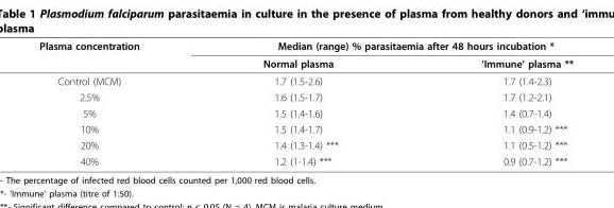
<table><thead><tr><td rowspan="2">Plasma concentration</td><td colspan="2">Median (range) % parasitaemia after 48 hours incubation *</td></tr><tr><td>Normal plasma</td><td>‘Immune’ plasma **</td></tr></thead><tbody><tr><td>Control (MCM)</td><td>1.7 (1.5-2.6)</td><td>1.7 (1.4-2.3)</td></tr><tr><td>2.5%</td><td>1.6 (1.5-1.7)</td><td>1.7 (1.2-2.1)</td></tr><tr><td>5%</td><td>1.5 (1.4-1.6)</td><td>1.4 (0.7-1.4)</td></tr><tr><td>10%</td><td>1.5 (1.4-1.7)</td><td>1.1 (0.9-1.2) ***</td></tr><tr><td>20%</td><td>1.4 (1.3-1.4) ***</td><td>1.1 (0.5-1.2) ***</td></tr><tr><td>40%</td><td>1.2 (1-1.4) ***</td><td>0.9 (0.7-1.2) ***</td></tr></tbody></table>